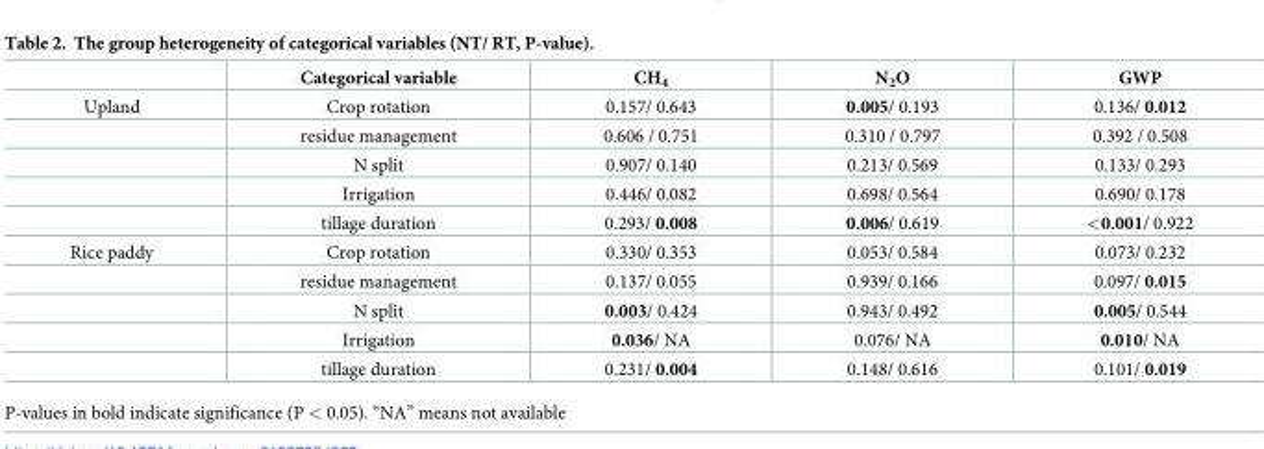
<table><thead><tr><td></td><td>Categorical variable</td><td>CH<sub>4</sub></td><td>N<sub>2</sub>O</td><td>GWP</td></tr></thead><tbody><tr><td rowspan="5">Upland</td><td>Crop rotation</td><td>0.157/ 0.643</td><td>0.005/ 0.193</td><td>0.136/ 0.012</td></tr><tr><td>residue management</td><td>0.606 / 0.751</td><td>0.310 / 0.797</td><td>0.392 / 0.508</td></tr><tr><td>N split</td><td>0.907/ 0.140</td><td>0.213/ 0.569</td><td>0.133/ 0.293</td></tr><tr><td>Irrigation</td><td>0.446/ 0.082</td><td>0.698/ 0.564</td><td>0.690/ 0.178</td></tr><tr><td>tillage duration</td><td>0.293/ 0.008</td><td>0.006/ 0.619</td><td>&lt;0.001/ 0.922</td></tr><tr><td rowspan="5">Rice paddy</td><td>Crop rotation</td><td>0.330/ 0.353</td><td>0.053/ 0.584</td><td>0.073/ 0.232</td></tr><tr><td>residue management</td><td>0.137/ 0.055</td><td>0.939/ 0.166</td><td>0.097/ 0.015</td></tr><tr><td>N split</td><td>0.003/ 0.424</td><td>0.943/ 0.492</td><td>0.005/ 0.544</td></tr><tr><td>Irrigation</td><td>0.036/ NA</td><td>0.076/ NA</td><td>0.010/ NA</td></tr><tr><td>tillage duration</td><td>0.231/ 0.004</td><td>0.148/ 0.616</td><td>0.101/ 0.019</td></tr></tbody></table>